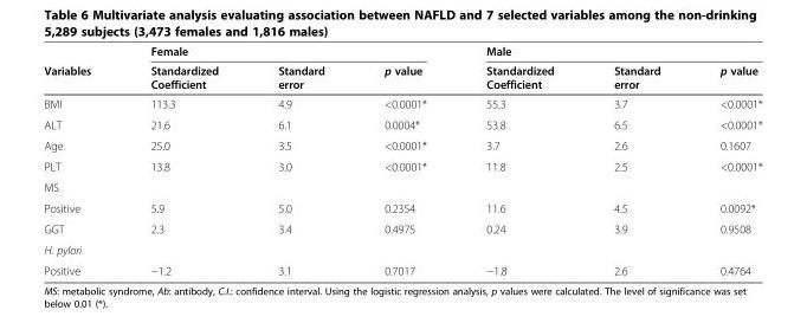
<table><thead><tr><td rowspan="2">Variables</td><td colspan="3">Female</td><td colspan="3">Male</td></tr><tr><td>Standardized Coefficient</td><td>Standard error</td><td>p value</td><td>Standardized Coefficient</td><td>Standard error</td><td>p value</td></tr></thead><tbody><tr><td>BMI</td><td>113.3</td><td>4.9</td><td>&lt;0.0001*</td><td>55.3</td><td>3.7</td><td>&lt;0.0001*</td></tr><tr><td>ALT</td><td>21.6</td><td>6.1</td><td>0.0004*</td><td>53.8</td><td>6.5</td><td>&lt;0.0001*</td></tr><tr><td>Age</td><td>25.0</td><td>3.5</td><td>&lt;0.0001*</td><td>3.7</td><td>2.6</td><td>0.1607</td></tr><tr><td>PLT</td><td>13.8</td><td>3.0</td><td>&lt;0.0001*</td><td>11.8</td><td>2.5</td><td>&lt;0.0001*</td></tr><tr><td>MS</td><td></td><td></td><td></td><td></td><td></td><td></td></tr><tr><td>Positive</td><td>5.9</td><td>5.0</td><td>0.2354</td><td>11.6</td><td>4.5</td><td>0.0092*</td></tr><tr><td>GGT</td><td>2.3</td><td>3.4</td><td>0.4975</td><td>0.24</td><td>3.9</td><td>0.9508</td></tr><tr><td>H. pylori</td><td></td><td></td><td></td><td></td><td></td><td></td></tr><tr><td>Positive</td><td>−1.2</td><td>3.1</td><td>0.7017</td><td>−1.8</td><td>2.6</td><td>0.4764</td></tr></tbody></table>